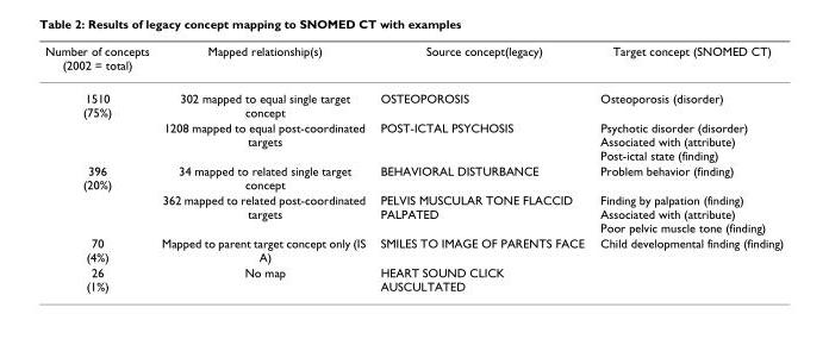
<table><thead><tr><td>Number of concepts (2002 = total)</td><td>Mapped relationship(s)</td><td>Source concept(legacy)</td><td>Target concept (SNOMED CT)</td></tr></thead><tbody><tr><td rowspan="2">1510 (75%)</td><td>302 mapped to equal single target concept</td><td>OSTEOPOROSIS</td><td>Osteoporosis (disorder)</td></tr><tr><td>1208 mapped to equal post-coordinated targets</td><td>POST-ICTAL PSYCHOSIS</td><td>Psychotic disorder (disorder) Associated with (attribute) Post-ictal state (finding)</td></tr><tr><td rowspan="2">396 (20%)</td><td>34 mapped to related single target concept</td><td>BEHAVIORAL DISTURBANCE</td><td>Problem behavior (finding)</td></tr><tr><td>362 mapped to related post-coordinated targets</td><td>PELVIS MUSCULAR TONE FLACCID PALPATED</td><td>Finding by palpation (finding) Associated with (attribute) Poor pelvic muscle tone (finding)</td></tr><tr><td>70 (4%)</td><td>Mapped to parent target concept only (IS A)</td><td>SMILES TO IMAGE OF PARENTS FACE</td><td>Child developmental finding (finding)</td></tr><tr><td>26 (1%)</td><td>No map</td><td>HEART SOUND CLICK AUSCULTATED</td><td></td></tr></tbody></table>